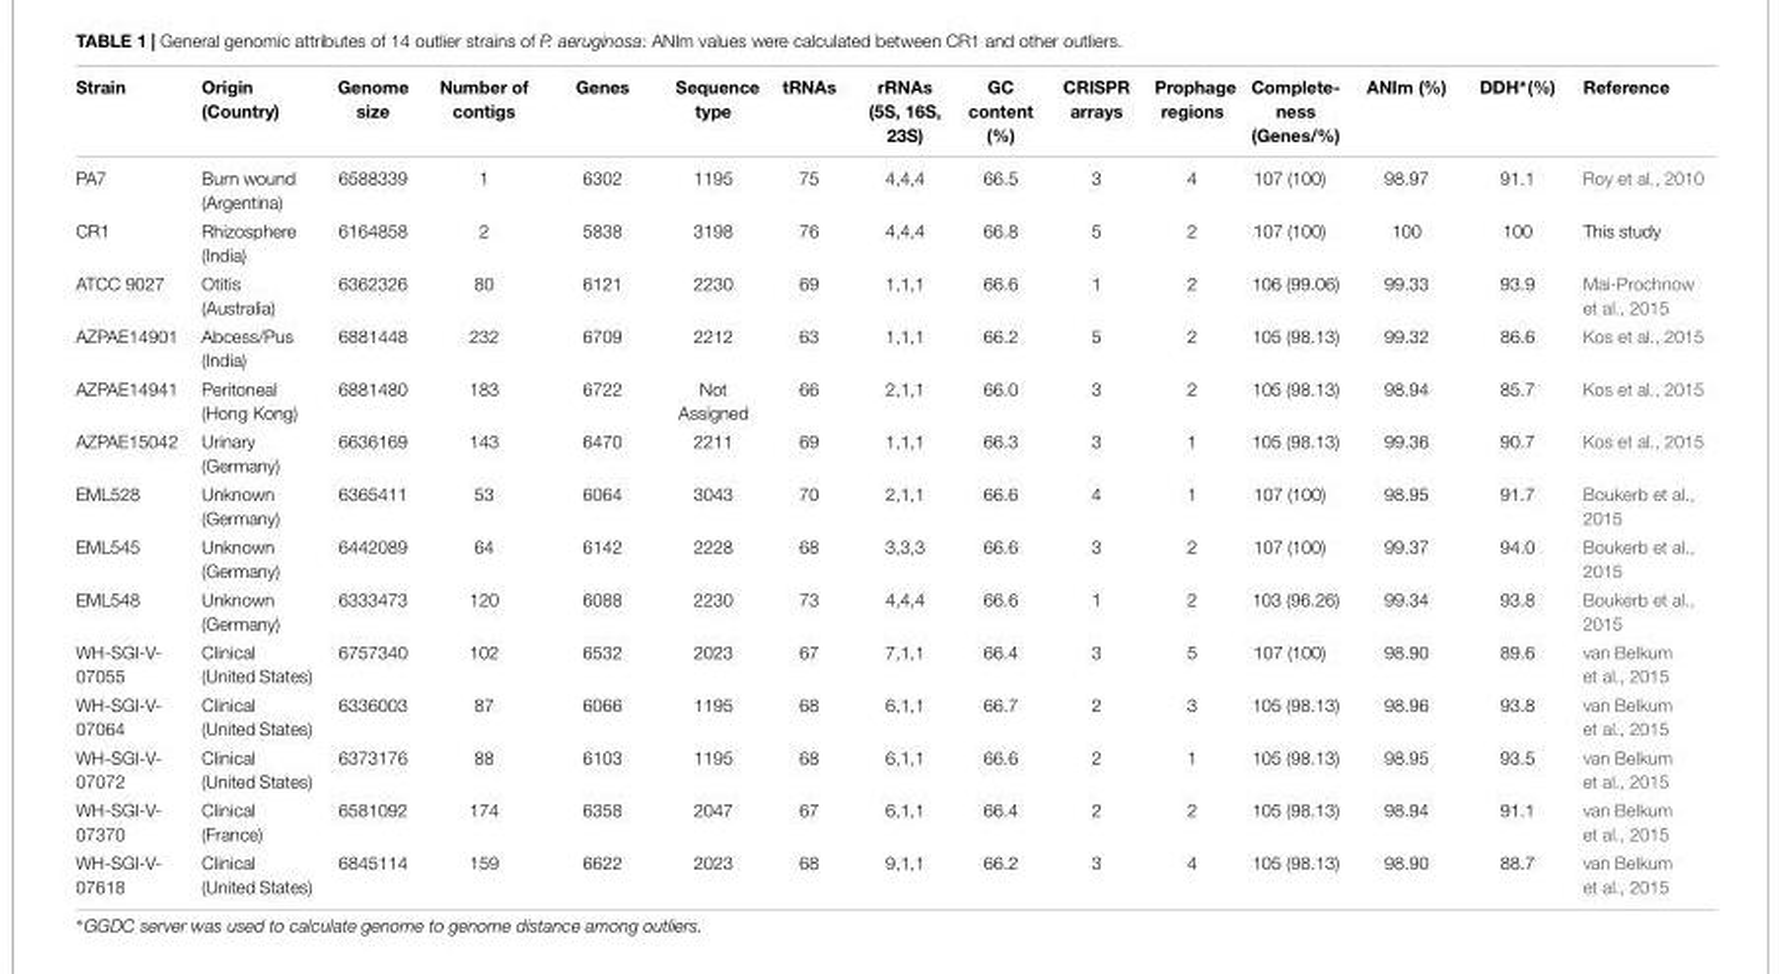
<table><thead><tr><td>Strain</td><td>Origin (Country)</td><td>Genome size</td><td>Number of contigs</td><td>Genes</td><td>Sequence type</td><td>tRNAs</td><td>rRNAs (5S, 16S, 23S)</td><td>GC content (%)</td><td>CRISPR arrays</td><td>Prophage regions</td><td>Complete- ness (Genes/%)</td><td>ANIm (%)</td><td>DDH∗(%)</td><td>Reference</td></tr></thead><tbody><tr><td>PA7</td><td>Burn wound (Argentina)</td><td>6588339</td><td>1</td><td>6302</td><td>1195</td><td>75</td><td>4,4,4</td><td>66.5</td><td>3</td><td>4</td><td>107 (100)</td><td>98.97</td><td>91.1</td><td>Roy et al., 2010</td></tr><tr><td>CR1</td><td>Rhizosphere (India)</td><td>6164858</td><td>2</td><td>5838</td><td>3198</td><td>76</td><td>4,4,4</td><td>66.8</td><td>5</td><td>2</td><td>107 (100)</td><td>100</td><td>100</td><td>This study</td></tr><tr><td>ATCC 9027</td><td>Otitis (Australia)</td><td>6362326</td><td>80</td><td>6121</td><td>2230</td><td>69</td><td>1,1,1</td><td>66.6</td><td>1</td><td>2</td><td>106 (99.06)</td><td>99.33</td><td>93.9</td><td>Mai-Prochnow et al., 2015</td></tr><tr><td>AZPAE14901</td><td>Abcess/Pus (India)</td><td>6881448</td><td>232</td><td>6709</td><td>2212</td><td>63</td><td>1,1,1</td><td>66.2</td><td>5</td><td>2</td><td>105 (98.13)</td><td>99.32</td><td>86.6</td><td>Kos et al., 2015</td></tr><tr><td>AZPAE14941</td><td>Peritoneal (Hong Kong)</td><td>6881480</td><td>183</td><td>6722</td><td>Not Assigned</td><td>66</td><td>2,1,1</td><td>66.0</td><td>3</td><td>2</td><td>105 (98.13)</td><td>98.94</td><td>85.7</td><td>Kos et al., 2015</td></tr><tr><td>AZPAE15042</td><td>Urinary (Germany)</td><td>6636169</td><td>143</td><td>6470</td><td>2211</td><td>69</td><td>1,1,1</td><td>66.3</td><td>3</td><td>1</td><td>105 (98.13)</td><td>99.36</td><td>90.7</td><td>Kos et al., 2015</td></tr><tr><td>EML528</td><td>Unknown (Germany)</td><td>6365411</td><td>53</td><td>6064</td><td>3043</td><td>70</td><td>2,1,1</td><td>66.6</td><td>4</td><td>1</td><td>107 (100)</td><td>98.95</td><td>91.7</td><td>Boukerb et al., 2015</td></tr><tr><td>EML545</td><td>Unknown (Germany)</td><td>6442089</td><td>64</td><td>6142</td><td>2228</td><td>68</td><td>3,3,3</td><td>66.6</td><td>3</td><td>2</td><td>107 (100)</td><td>99.37</td><td>94.0</td><td>Boukerb et al., 2015</td></tr><tr><td>EML548</td><td>Unknown (Germany)</td><td>6333473</td><td>120</td><td>6088</td><td>2230</td><td>73</td><td>4,4,4</td><td>66.6</td><td>1</td><td>2</td><td>103 (96.26)</td><td>99.34</td><td>93.8</td><td>Boukerb et al., 2015</td></tr><tr><td>WH-SGI-V- 07055</td><td>Clinical (United States)</td><td>6757340</td><td>102</td><td>6532</td><td>2023</td><td>67</td><td>7,1,1</td><td>66.4</td><td>3</td><td>5</td><td>107 (100)</td><td>98.90</td><td>89.6</td><td>van Belkum et al., 2015</td></tr><tr><td>WH-SGI-V- 07064</td><td>Clinical (United States)</td><td>6336003</td><td>87</td><td>6066</td><td>1195</td><td>68</td><td>6,1,1</td><td>66.7</td><td>2</td><td>3</td><td>105 (98.13)</td><td>98.96</td><td>93.8</td><td>van Belkum et al., 2015</td></tr><tr><td>WH-SGI-V- 07072</td><td>Clinical (United States)</td><td>6373176</td><td>88</td><td>6103</td><td>1195</td><td>68</td><td>6,1,1</td><td>66.6</td><td>2</td><td>1</td><td>105 (98.13)</td><td>98.95</td><td>93.5</td><td>van Belkum et al., 2015</td></tr><tr><td>WH-SGI-V- 07370</td><td>Clinical (France)</td><td>6581092</td><td>174</td><td>6358</td><td>2047</td><td>67</td><td>6,1,1</td><td>66.4</td><td>2</td><td>2</td><td>105 (98.13)</td><td>98.94</td><td>91.1</td><td>van Belkum et al., 2015</td></tr><tr><td>WH-SGI-V- 07618</td><td>Clinical (United States)</td><td>6845114</td><td>159</td><td>6622</td><td>2023</td><td>68</td><td>9,1,1</td><td>66.2</td><td>3</td><td>4</td><td>105 (98.13)</td><td>98.90</td><td>88.7</td><td>van Belkum et al., 2015</td></tr></tbody></table>